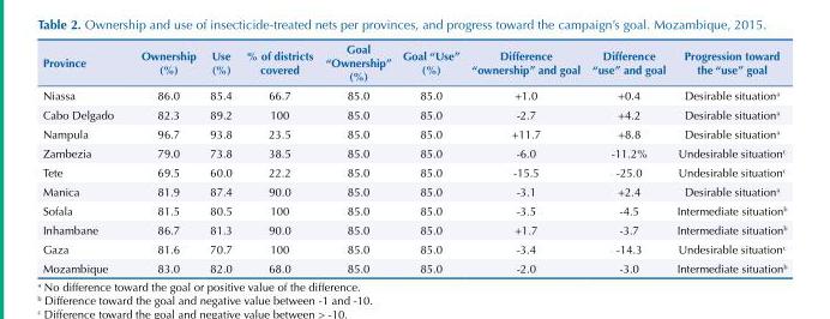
<table><thead><tr><td>Province</td><td>Ownership (%)</td><td>Use (%)</td><td>% of districts covered</td><td>Goal “Ownership” (%)</td><td>Goal “Use” (%)</td><td>Difference “ownership” and goal</td><td>Difference “use” and goal</td><td>Progression toward the “use” goal</td></tr></thead><tbody><tr><td>Niassa</td><td>86.0</td><td>85.4</td><td>66.7</td><td>85.0</td><td>85.0</td><td>+1.0</td><td>+0.4</td><td>Desirable situation<sup>a</sup></td></tr><tr><td>Cabo Delgado</td><td>82.3</td><td>89.2</td><td>100</td><td>85.0</td><td>85.0</td><td>-2.7</td><td>+4.2</td><td>Desirable situation<sup>a</sup></td></tr><tr><td>Nampula</td><td>96.7</td><td>93.8</td><td>23.5</td><td>85.0</td><td>85.0</td><td>+11.7</td><td>+8.8</td><td>Desirable situation<sup>a</sup></td></tr><tr><td>Zambezia</td><td>79.0</td><td>73.8</td><td>38.5</td><td>85.0</td><td>85.0</td><td>-6.0</td><td>-11.2%</td><td>Undesirable situation<sup>c</sup></td></tr><tr><td>Tete</td><td>69.5</td><td>60.0</td><td>22.2</td><td>85.0</td><td>85.0</td><td>-15.5</td><td>-25.0</td><td>Undesirable situation<sup>c</sup></td></tr><tr><td>Manica</td><td>81.9</td><td>87.4</td><td>90.0</td><td>85.0</td><td>85.0</td><td>-3.1</td><td>+2.4</td><td>Desirable situation<sup>a</sup></td></tr><tr><td>Sofala</td><td>81.5</td><td>80.5</td><td>100</td><td>85.0</td><td>85.0</td><td>-3.5</td><td>-4.5</td><td>Intermediate situation<sup>b</sup></td></tr><tr><td>Inhambane</td><td>86.7</td><td>81.3</td><td>90.0</td><td>85.0</td><td>85.0</td><td>+1.7</td><td>-3.7</td><td>Intermediate situation<sup>b</sup></td></tr><tr><td>Gaza</td><td>81.6</td><td>70.7</td><td>100</td><td>85.0</td><td>85.0</td><td>-3.4</td><td>-14.3</td><td>Undesirable situation<sup>c</sup></td></tr><tr><td>Mozambique</td><td>83.0</td><td>82.0</td><td>68.0</td><td>85.0</td><td>85.0</td><td>-2.0</td><td>-3.0</td><td>Intermediate situation<sup>b</sup></td></tr></tbody></table>